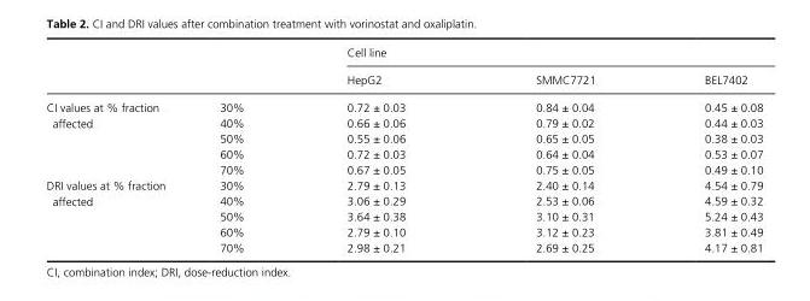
<table><thead><tr><td rowspan="2"></td><td rowspan="2"></td><td colspan="3">Cell line</td></tr><tr><td>HepG2</td><td>SMMC7721</td><td>BEL7402</td></tr></thead><tbody><tr><td rowspan="5">CI values at % fraction affected</td><td>30%</td><td>0.72 ± 0.03</td><td>0.84 ± 0.04</td><td>0.45 ± 0.08</td></tr><tr><td>40%</td><td>0.66 ± 0.06</td><td>0.79 ± 0.02</td><td>0.44 ± 0.03</td></tr><tr><td>50%</td><td>0.55 ± 0.06</td><td>0.65 ± 0.05</td><td>0.38 ± 0.03</td></tr><tr><td>60%</td><td>0.72 ± 0.03</td><td>0.64 ± 0.04</td><td>0.53 ± 0.07</td></tr><tr><td>70%</td><td>0.67 ± 0.05</td><td>0.75 ± 0.05</td><td>0.49 ± 0.10</td></tr><tr><td rowspan="5">DRI values at % fraction affected</td><td>30%</td><td>2.79 ± 0.13</td><td>2.40 ± 0.14</td><td>4.54 ± 0.79</td></tr><tr><td>40%</td><td>3.06 ± 0.29</td><td>2.53 ± 0.06</td><td>4.59 ± 0.32</td></tr><tr><td>50%</td><td>3.64 ± 0.38</td><td>3.10 ± 0.31</td><td>5.24 ± 0.43</td></tr><tr><td>60%</td><td>2.79 ± 0.10</td><td>3.12 ± 0.23</td><td>3.81 ± 0.49</td></tr><tr><td>70%</td><td>2.98 ± 0.21</td><td>2.69 ± 0.25</td><td>4.17 ± 0.81</td></tr></tbody></table>